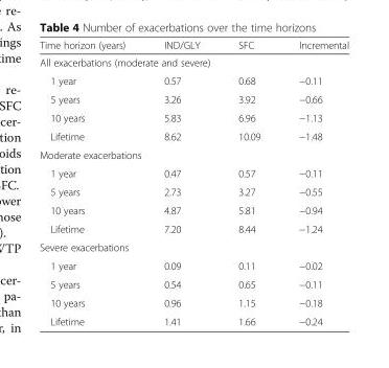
<table><thead><tr><td>Time horizon (years)</td><td>IND/GLY</td><td>SFC</td><td>Incremental</td></tr></thead><tbody><tr><td colspan="4">All exacerbations (moderate and severe)</td></tr><tr><td>1 year</td><td>0.57</td><td>0.68</td><td>−0.11</td></tr><tr><td>5 years</td><td>3.26</td><td>3.92</td><td>−0.66</td></tr><tr><td>10 years</td><td>5.83</td><td>6.96</td><td>−1.13</td></tr><tr><td>Lifetime</td><td>8.62</td><td>10.09</td><td>−1.48</td></tr><tr><td colspan="4">Moderate exacerbations</td></tr><tr><td>1 year</td><td>0.47</td><td>0.57</td><td>−0.11</td></tr><tr><td>5 years</td><td>2.73</td><td>3.27</td><td>−0.55</td></tr><tr><td>10 years</td><td>4.87</td><td>5.81</td><td>−0.94</td></tr><tr><td>Lifetime</td><td>7.20</td><td>8.44</td><td>−1.24</td></tr><tr><td colspan="4">Severe exacerbations</td></tr><tr><td>1 year</td><td>0.09</td><td>0.11</td><td>−0.02</td></tr><tr><td>5 years</td><td>0.54</td><td>0.65</td><td>−0.11</td></tr><tr><td>10 years</td><td>0.96</td><td>1.15</td><td>−0.18</td></tr><tr><td>Lifetime</td><td>1.41</td><td>1.66</td><td>−0.24</td></tr></tbody></table>